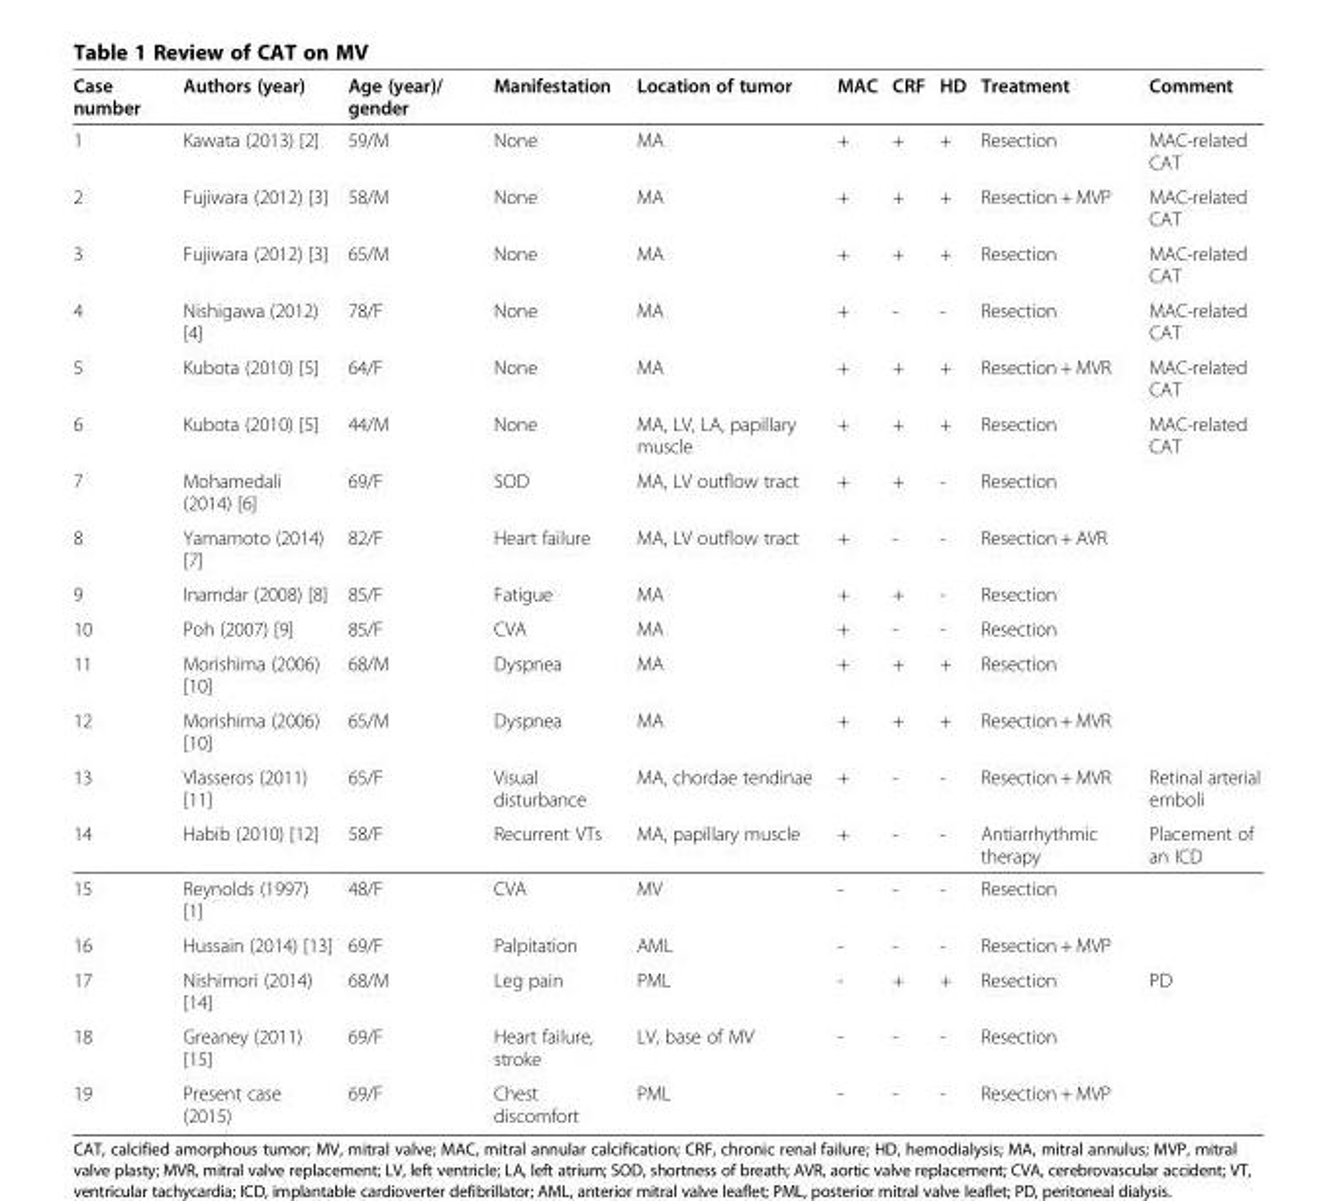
<table><thead><tr><td>Case number</td><td>Authors (year)</td><td>Age (year)/ gender</td><td>Manifestation</td><td>Location of tumor</td><td>MAC</td><td>CRF</td><td>HD</td><td>Treatment</td><td>Comment</td></tr></thead><tbody><tr><td>1</td><td>Kawata (2013) [2]</td><td>59/M</td><td>None</td><td>MA</td><td>+</td><td>+</td><td>+</td><td>Resection</td><td>MAC-related CAT</td></tr><tr><td>2</td><td>Fujiwara (2012) [3]</td><td>58/M</td><td>None</td><td>MA</td><td>+</td><td>+</td><td>+</td><td>Resection + MVP</td><td>MAC-related CAT</td></tr><tr><td>3</td><td>Fujiwara (2012) [3]</td><td>65/M</td><td>None</td><td>MA</td><td>+</td><td>+</td><td>+</td><td>Resection</td><td>MAC-related CAT</td></tr><tr><td>4</td><td>Nishigawa (2012) [4]</td><td>78/F</td><td>None</td><td>MA</td><td>+</td><td>-</td><td>-</td><td>Resection</td><td>MAC-related CAT</td></tr><tr><td>5</td><td>Kubota (2010) [5]</td><td>64/F</td><td>None</td><td>MA</td><td>+</td><td>+</td><td>+</td><td>Resection + MVR</td><td>MAC-related CAT</td></tr><tr><td>6</td><td>Kubota (2010) [5]</td><td>44/M</td><td>None</td><td>MA, LV, LA, papillary muscle</td><td>+</td><td>+</td><td>+</td><td>Resection</td><td>MAC-related CAT</td></tr><tr><td>7</td><td>Mohamedali (2014) [6]</td><td>69/F</td><td>SOD</td><td>MA, LV outflow tract</td><td>+</td><td>+</td><td>-</td><td>Resection</td><td></td></tr><tr><td>8</td><td>Yamamoto (2014) [7]</td><td>82/F</td><td>Heart failure</td><td>MA, LV outflow tract</td><td>+</td><td>-</td><td>-</td><td>Resection + AVR</td><td></td></tr><tr><td>9</td><td>Inamdar (2008) [8]</td><td>85/F</td><td>Fatigue</td><td>MA</td><td>+</td><td>+</td><td>-</td><td>Resection</td><td></td></tr><tr><td>10</td><td>Poh (2007) [9]</td><td>85/F</td><td>CVA</td><td>MA</td><td>+</td><td>-</td><td>-</td><td>Resection</td><td></td></tr><tr><td>11</td><td>Morishima (2006) [10]</td><td>68/M</td><td>Dyspnea</td><td>MA</td><td>+</td><td>+</td><td>+</td><td>Resection</td><td></td></tr><tr><td>12</td><td>Morishima (2006) [10]</td><td>65/M</td><td>Dyspnea</td><td>MA</td><td>+</td><td>+</td><td>+</td><td>Resection + MVR</td><td></td></tr><tr><td>13</td><td>Vlasseros (2011) [11]</td><td>65/F</td><td>Visual disturbance</td><td>MA, chordae tendinae</td><td>+</td><td>-</td><td>-</td><td>Resection + MVR</td><td>Retinal arterial emboli</td></tr><tr><td>14</td><td>Habib (2010) [12]</td><td>58/F</td><td>Recurrent VTs</td><td>MA, papillary muscle</td><td>+</td><td>-</td><td>-</td><td>Antiarrhythmic therapy</td><td>Placement of an ICD</td></tr><tr><td>15</td><td>Reynolds (1997) [1]</td><td>48/F</td><td>CVA</td><td>MV</td><td>-</td><td>-</td><td>-</td><td>Resection</td><td></td></tr><tr><td>16</td><td>Hussain (2014) [13]</td><td>69/F</td><td>Palpitation</td><td>AML</td><td>-</td><td>-</td><td>-</td><td>Resection + MVP</td><td></td></tr><tr><td>17</td><td>Nishimori (2014) [14]</td><td>68/M</td><td>Leg pain</td><td>PML</td><td>-</td><td>+</td><td>+</td><td>Resection</td><td>PD</td></tr><tr><td>18</td><td>Greaney (2011) [15]</td><td>69/F</td><td>Heart failure, stroke</td><td>LV, base of MV</td><td>-</td><td>-</td><td>-</td><td>Resection</td><td></td></tr><tr><td>19</td><td>Present case (2015)</td><td>69/F</td><td>Chest discomfort</td><td>PML</td><td>-</td><td>-</td><td>-</td><td>Resection + MVP</td><td></td></tr></tbody></table>